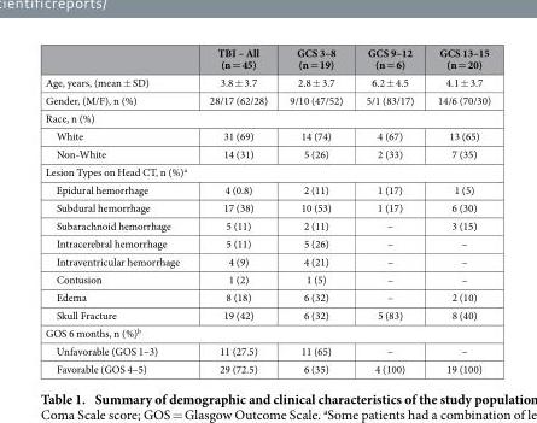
<table><thead><tr><td></td><td>TBI – All (n = 45)</td><td>GCS 3–8 (n = 19)</td><td>GCS 9–12 (n = 6)</td><td>GCS 13–15 (n = 20)</td></tr></thead><tbody><tr><td>Age, years, (mean ± SD)</td><td>3.8 ± 3.7</td><td>2.8 ± 3.7</td><td>6.2 ± 4.5</td><td>4.1 ± 3.7</td></tr><tr><td>Gender, (M/F), n (%)</td><td>28/17 (62/28)</td><td>9/10 (47/52)</td><td>5/1 (83/17)</td><td>14/6 (70/30)</td></tr><tr><td colspan="5">Race, n (%)</td></tr><tr><td>White</td><td>31 (69)</td><td>14 (74)</td><td>4 (67)</td><td>13 (65)</td></tr><tr><td>Non-White</td><td>14 (31)</td><td>5 (26)</td><td>2 (33)</td><td>7 (35)</td></tr><tr><td colspan="5">Lesion Types on Head CT, n (%)<sup>a</sup></td></tr><tr><td>Epidural hemorrhage</td><td>4 (0.8)</td><td>2 (11)</td><td>1 (17)</td><td>1 (5)</td></tr><tr><td>Subdural hemorrhage</td><td>17 (38)</td><td>10 (53)</td><td>1 (17)</td><td>6 (30)</td></tr><tr><td>Subarachnoid hemorrhage</td><td>5 (11)</td><td>2 (11)</td><td>–</td><td>3 (15)</td></tr><tr><td>Intracerebral hemorrhage</td><td>5 (11)</td><td>5 (26)</td><td>–</td><td>–</td></tr><tr><td>Intraventricular hemorrhage</td><td>4 (9)</td><td>4 (21)</td><td>–</td><td>–</td></tr><tr><td>Contusion</td><td>1 (2)</td><td>1 (5)</td><td>–</td><td>–</td></tr><tr><td>Edema</td><td>8 (18)</td><td>6 (32)</td><td>–</td><td>2 (10)</td></tr><tr><td>Skull Fracture</td><td>19 (42)</td><td>6 (32)</td><td>5 (83)</td><td>8 (40)</td></tr><tr><td colspan="5">GOS 6 months, n (%)<sup>b</sup></td></tr><tr><td>Unfavorable (GOS 1–3)</td><td>11 (27.5)</td><td>11 (65)</td><td>–</td><td>–</td></tr><tr><td>Favorable (GOS 4–5)</td><td>29 (72.5)</td><td>6 (35)</td><td>4 (100)</td><td>19 (100)</td></tr></tbody></table>